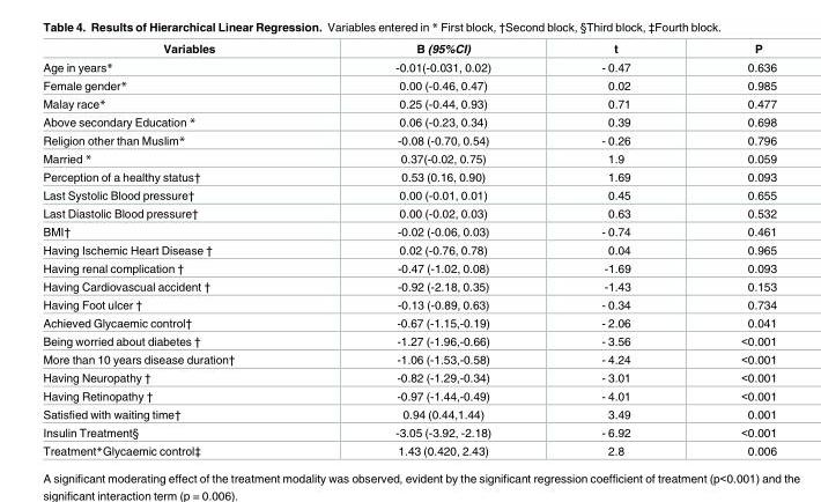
<table><thead><tr><td>Variables</td><td>B (95%CI)</td><td>t</td><td>P</td></tr></thead><tbody><tr><td>Age in years*</td><td>-0.01(-0.031, 0.02)</td><td>- 0.47</td><td>0.636</td></tr><tr><td>Female gender*</td><td>0.00 (-0.46, 0.47)</td><td>0.02</td><td>0.985</td></tr><tr><td>Malay race*</td><td>0.25 (-0.44, 0.93)</td><td>0.71</td><td>0.477</td></tr><tr><td>Above secondary Education *</td><td>0.06 (-0.23, 0.34)</td><td>0.39</td><td>0.698</td></tr><tr><td>Religion other than Muslim*</td><td>-0.08 (-0.70, 0.54)</td><td>- 0.26</td><td>0.796</td></tr><tr><td>Married *</td><td>0.37(-0.02, 0.75)</td><td>1.9</td><td>0.059</td></tr><tr><td>Perception of a healthy status†</td><td>0.53 (0.16, 0.90)</td><td>1.69</td><td>0.093</td></tr><tr><td>Last Systolic Blood pressure†</td><td>0.00 (-0.01, 0.01)</td><td>0.45</td><td>0.655</td></tr><tr><td>Last Diastolic Blood pressure†</td><td>0.00 (-0.02, 0.03)</td><td>0.63</td><td>0.532</td></tr><tr><td>BMI†</td><td>-0.02 (-0.06, 0.03)</td><td>- 0.74</td><td>0.461</td></tr><tr><td>Having Ischemic Heart Disease †</td><td>0.02 (-0.76, 0.78)</td><td>0.04</td><td>0.965</td></tr><tr><td>Having renal complication †</td><td>-0.47 (-1.02, 0.08)</td><td>-1.69</td><td>0.093</td></tr><tr><td>Having Cardiovascual accident †</td><td>-0.92 (-2.18, 0.35)</td><td>-1.43</td><td>0.153</td></tr><tr><td>Having Foot ulcer †</td><td>-0.13 (-0.89, 0.63)</td><td>- 0.34</td><td>0.734</td></tr><tr><td>Achieved Glycaemic control†</td><td>-0.67 (-1.15,-0.19)</td><td>- 2.06</td><td>0.041</td></tr><tr><td>Being worried about diabetes †</td><td>-1.27 (-1.96,-0.66)</td><td>- 3.56</td><td>&lt;0.001</td></tr><tr><td>More than 10 years disease duration†</td><td>-1.06 (-1.53,-0.58)</td><td>- 4.24</td><td>&lt;0.001</td></tr><tr><td>Having Neuropathy †</td><td>-0.82 (-1.29,-0.34)</td><td>- 3.01</td><td>&lt;0.001</td></tr><tr><td>Having Retinopathy †</td><td>-0.97 (-1.44,-0.49)</td><td>- 4.01</td><td>&lt;0.001</td></tr><tr><td>Satisfied with waiting time†</td><td>0.94 (0.44,1.44)</td><td>3.49</td><td>0.001</td></tr><tr><td>Insulin Treatment§</td><td>-3.05 (-3.92, -2.18)</td><td>- 6.92</td><td>&lt;0.001</td></tr><tr><td>Treatment*Glycaemic control‡</td><td>1.43 (0.420, 2.43)</td><td>2.8</td><td>0.006</td></tr></tbody></table>